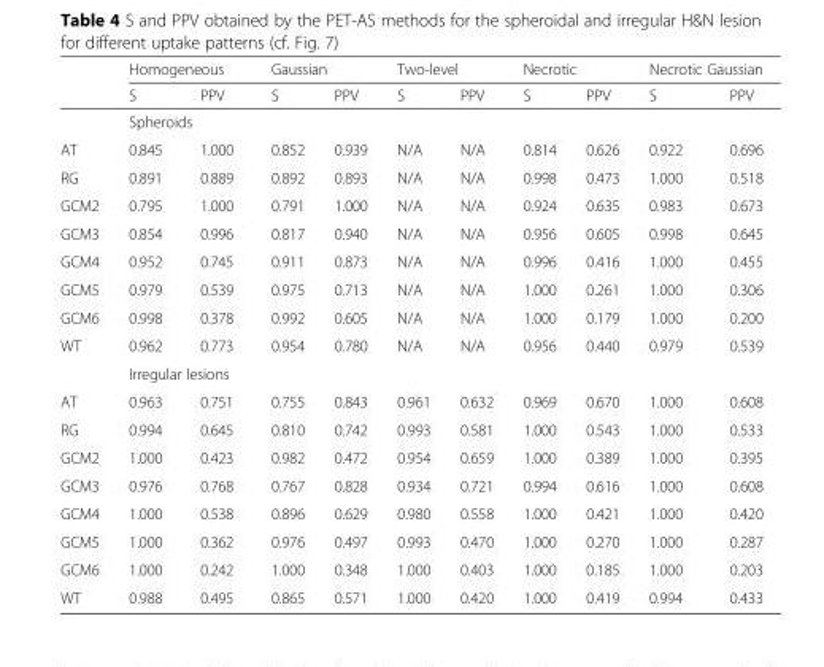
<table><thead><tr><td rowspan="2"></td><td colspan="2">Homogeneous</td><td colspan="2">Gaussian</td><td colspan="2">Two-level</td><td colspan="2">Necrotic</td><td colspan="2">Necrotic Gaussian</td></tr><tr><td>S</td><td>PPV</td><td>S</td><td>PPV</td><td>S</td><td>PPV</td><td>S</td><td>PPV</td><td>S</td><td>PPV</td></tr></thead><tbody><tr><td></td><td colspan="10">Spheroids</td></tr><tr><td>AT</td><td>0.845</td><td>1.000</td><td>0.852</td><td>0.939</td><td>N/A</td><td>N/A</td><td>0.814</td><td>0.626</td><td>0.922</td><td>0.696</td></tr><tr><td>RG</td><td>0.891</td><td>0.889</td><td>0.892</td><td>0.893</td><td>N/A</td><td>N/A</td><td>0.998</td><td>0.473</td><td>1.000</td><td>0.518</td></tr><tr><td>GCM2</td><td>0.795</td><td>1.000</td><td>0.791</td><td>1.000</td><td>N/A</td><td>N/A</td><td>0.924</td><td>0.635</td><td>0.983</td><td>0.673</td></tr><tr><td>GCM3</td><td>0.854</td><td>0.996</td><td>0.817</td><td>0.940</td><td>N/A</td><td>N/A</td><td>0.956</td><td>0.605</td><td>0.998</td><td>0.645</td></tr><tr><td>GCM4</td><td>0.952</td><td>0.745</td><td>0.911</td><td>0.873</td><td>N/A</td><td>N/A</td><td>0.996</td><td>0.416</td><td>1.000</td><td>0.455</td></tr><tr><td>GCM5</td><td>0.979</td><td>0.539</td><td>0.975</td><td>0.713</td><td>N/A</td><td>N/A</td><td>1.000</td><td>0.261</td><td>1.000</td><td>0.306</td></tr><tr><td>GCM6</td><td>0.998</td><td>0.378</td><td>0.992</td><td>0.605</td><td>N/A</td><td>N/A</td><td>1.000</td><td>0.179</td><td>1.000</td><td>0.200</td></tr><tr><td rowspan="2">WT</td><td>0.962</td><td>0.773</td><td>0.954</td><td>0.780</td><td>N/A</td><td>N/A</td><td>0.956</td><td>0.440</td><td>0.979</td><td>0.539</td></tr><tr><td colspan="10">Irregular lesions</td></tr><tr><td>AT</td><td>0.963</td><td>0.751</td><td>0.755</td><td>0.843</td><td>0.961</td><td>0.632</td><td>0.969</td><td>0.670</td><td>1.000</td><td>0.608</td></tr><tr><td>RG</td><td>0.994</td><td>0.645</td><td>0.810</td><td>0.742</td><td>0.993</td><td>0.581</td><td>1.000</td><td>0.543</td><td>1.000</td><td>0.533</td></tr><tr><td>GCM2</td><td>1.000</td><td>0.423</td><td>0.982</td><td>0.472</td><td>0.954</td><td>0.659</td><td>1.000</td><td>0.389</td><td>1.000</td><td>0.395</td></tr><tr><td>GCM3</td><td>0.976</td><td>0.768</td><td>0.767</td><td>0.828</td><td>0.934</td><td>0.721</td><td>0.994</td><td>0.616</td><td>1.000</td><td>0.608</td></tr><tr><td>GCM4</td><td>1.000</td><td>0.538</td><td>0.896</td><td>0.629</td><td>0.980</td><td>0.558</td><td>1.000</td><td>0.421</td><td>1.000</td><td>0.420</td></tr><tr><td>GCM5</td><td>1.000</td><td>0.362</td><td>0.976</td><td>0.497</td><td>0.993</td><td>0.470</td><td>1.000</td><td>0.270</td><td>1.000</td><td>0.287</td></tr><tr><td>GCM6</td><td>1.000</td><td>0.242</td><td>1.000</td><td>0.348</td><td>1.000</td><td>0.403</td><td>1.000</td><td>0.185</td><td>1.000</td><td>0.203</td></tr><tr><td>WT</td><td>0.988</td><td>0.495</td><td>0.865</td><td>0.571</td><td>1.000</td><td>0.420</td><td>1.000</td><td>0.419</td><td>0.994</td><td>0.433</td></tr></tbody></table>